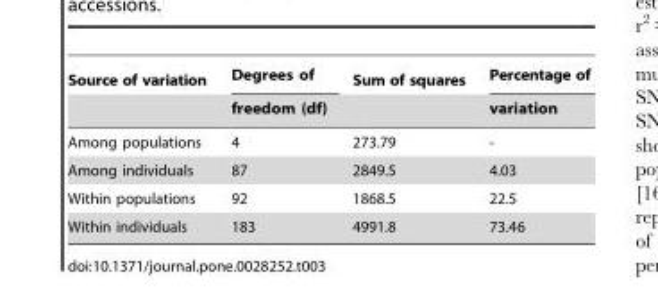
<table><thead><tr><td rowspan="2">Source of variation</td><td rowspan="2">Degrees of freedom (df)</td><td rowspan="2">Sum of squares</td><td rowspan="2">Percentage of variation</td></tr><tr></tr></thead><tbody><tr><td>Among populations</td><td>4</td><td>273.79</td><td>-</td></tr><tr><td>Among individuals</td><td>87</td><td>2849.5</td><td>4.03</td></tr><tr><td>Within populations</td><td>92</td><td>1868.5</td><td>22.5</td></tr><tr><td>Within individuals</td><td>183</td><td>4991.8</td><td>73.46</td></tr></tbody></table>